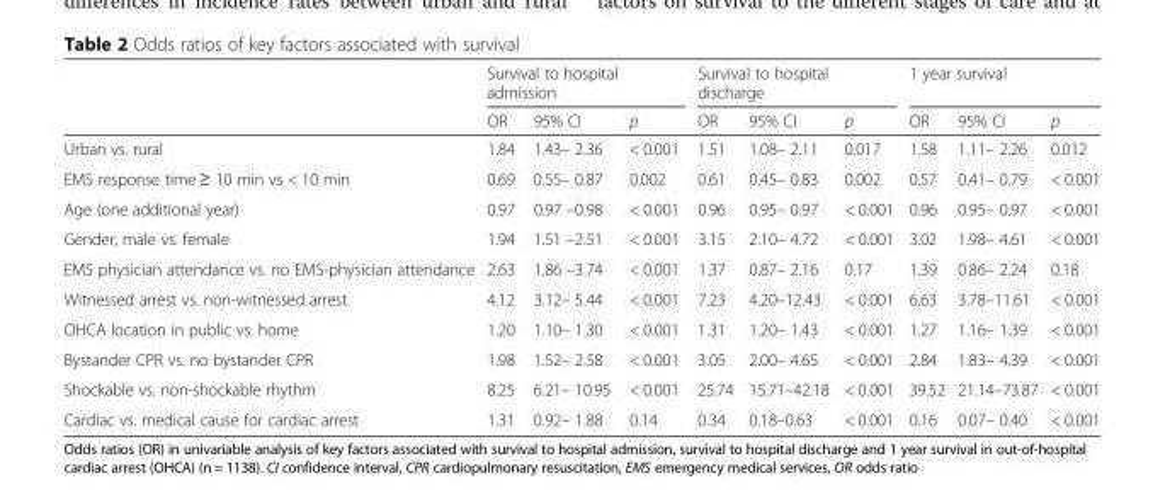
<table><thead><tr><td rowspan="2"></td><td colspan="3">Survival to hospital admission</td><td colspan="3">Survival to hospital discharge</td><td colspan="3">1 year survival</td></tr><tr><td>OR</td><td>95% CI</td><td>p</td><td>OR</td><td>95% CI</td><td>p</td><td>OR</td><td>95% CI</td><td>p</td></tr></thead><tbody><tr><td>Urban vs. rural</td><td>1.84</td><td>1.43– 2.36</td><td>&lt; 0.001</td><td>1.51</td><td>1.08– 2.11</td><td>0.017</td><td>1.58</td><td>1.11– 2.26</td><td>0.012</td></tr><tr><td>EMS response time ≥ 10 min vs &lt; 10 min</td><td>0.69</td><td>0.55– 0.87</td><td>0.002</td><td>0.61</td><td>0.45– 0.83</td><td>0.002</td><td>0.57</td><td>0.41– 0.79</td><td>&lt; 0.001</td></tr><tr><td>Age (one additional year)</td><td>0.97</td><td>0.97 –0.98</td><td>&lt; 0.001</td><td>0.96</td><td>0.95– 0.97</td><td>&lt; 0.001</td><td>0.96</td><td>0.95– 0.97</td><td>&lt; 0.001</td></tr><tr><td>Gender, male vs. female</td><td>1.94</td><td>1.51 –2.51</td><td>&lt; 0.001</td><td>3.15</td><td>2.10– 4.72</td><td>&lt; 0.001</td><td>3.02</td><td>1.98– 4.61</td><td>&lt; 0.001</td></tr><tr><td>EMS physician attendance vs. no EMS-physician attendance</td><td>2.63</td><td>1.86 –3.74</td><td>&lt; 0.001</td><td>1.37</td><td>0.87– 2.16</td><td>0.17</td><td>1.39</td><td>0.86– 2.24</td><td>0.18</td></tr><tr><td>Witnessed arrest vs. non-witnessed arrest</td><td>4.12</td><td>3.12– 5.44</td><td>&lt; 0.001</td><td>7.23</td><td>4.20–12.43</td><td>&lt; 0.001</td><td>6.63</td><td>3.78–11.61</td><td>&lt; 0.001</td></tr><tr><td>OHCA location in public vs. home</td><td>1.20</td><td>1.10– 1.30</td><td>&lt; 0.001</td><td>1.31</td><td>1.20– 1.43</td><td>&lt; 0.001</td><td>1.27</td><td>1.16– 1.39</td><td>&lt; 0.001</td></tr><tr><td>Bystander CPR vs. no bystander CPR</td><td>1.98</td><td>1.52– 2.58</td><td>&lt; 0.001</td><td>3.05</td><td>2.00– 4.65</td><td>&lt; 0.001</td><td>2.84</td><td>1.83– 4.39</td><td>&lt; 0.001</td></tr><tr><td>Shockable vs. non-shockable rhythm</td><td>8.25</td><td>6.21– 10.95</td><td>&lt; 0.001</td><td>25.74</td><td>15.71–42.18</td><td>&lt; 0.001</td><td>39.52</td><td>21.14–73.87</td><td>&lt; 0.001</td></tr><tr><td>Cardiac vs. medical cause for cardiac arrest</td><td>1.31</td><td>0.92– 1.88</td><td>0.14</td><td>0.34</td><td>0.18–0.63</td><td>&lt; 0.001</td><td>0.16</td><td>0.07– 0.40</td><td>&lt; 0.001</td></tr></tbody></table>